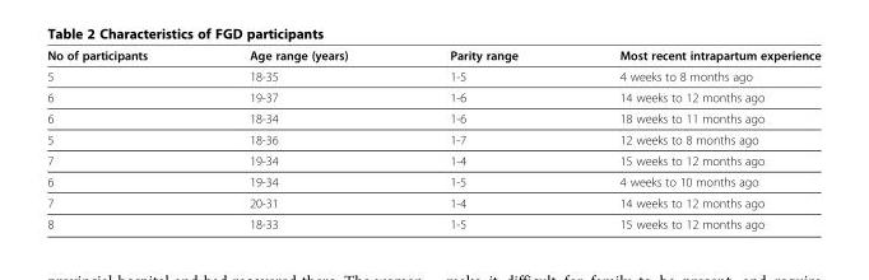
<table><thead><tr><td>No of participants</td><td>Age range (years)</td><td>Parity range</td><td>Most recent intrapartum experience</td></tr></thead><tbody><tr><td>5</td><td>18-35</td><td>1-5</td><td>4 weeks to 8 months ago</td></tr><tr><td>6</td><td>19-37</td><td>1-6</td><td>14 weeks to 12 months ago</td></tr><tr><td>6</td><td>18-34</td><td>1-6</td><td>18 weeks to 11 months ago</td></tr><tr><td>5</td><td>18-36</td><td>1-7</td><td>12 weeks to 8 months ago</td></tr><tr><td>7</td><td>19-34</td><td>1-4</td><td>15 weeks to 12 months ago</td></tr><tr><td>6</td><td>19-34</td><td>1-5</td><td>4 weeks to 10 months ago</td></tr><tr><td>7</td><td>20-31</td><td>1-4</td><td>14 weeks to 12 months ago</td></tr><tr><td>8</td><td>18-33</td><td>1-5</td><td>15 weeks to 12 months ago</td></tr></tbody></table>